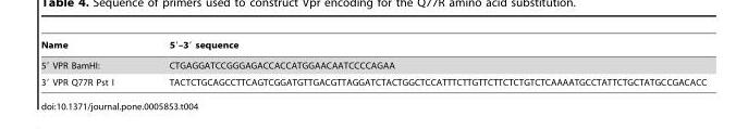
<table><thead><tr><td>Name</td><td>5′–3′ sequence</td></tr></thead><tbody><tr><td>5′ VPR BamHI:</td><td>CTGAGGATCCGGGAGACCACCATGGAACAATCCCCAGAA</td></tr><tr><td>3′ VPR Q77R Pst I</td><td>TACTCTGCAGCCTTCAGTCGGATGTTGACGTTAGGATCTACTGGCTCCATTTCTTGTTCTTCTCTGTCTCAAAATGCCTATTCTGCTATGCCGACACC</td></tr></tbody></table>